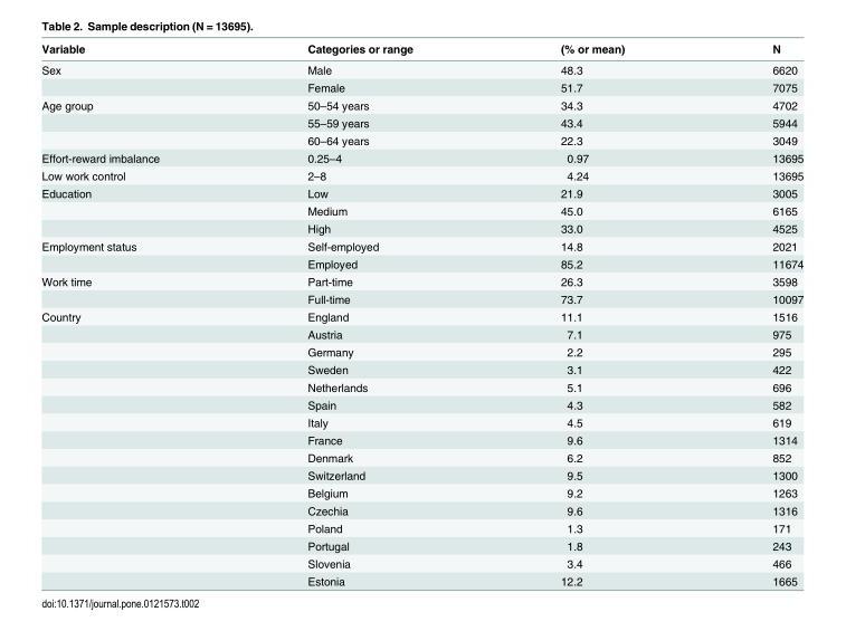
<table><thead><tr><td>Variable</td><td>Categories or range</td><td>(% or mean)</td><td>N</td></tr></thead><tbody><tr><td rowspan="2">Sex</td><td>Male</td><td>48.3</td><td>6620</td></tr><tr><td>Female</td><td>51.7</td><td>7075</td></tr><tr><td rowspan="3">Age group</td><td>50–54 years</td><td>34.3</td><td>4702</td></tr><tr><td>55–59 years</td><td>43.4</td><td>5944</td></tr><tr><td>60–64 years</td><td>22.3</td><td>3049</td></tr><tr><td>Effort-reward imbalance</td><td>0.25–4</td><td>0.97</td><td>13695</td></tr><tr><td>Low work control</td><td>2–8</td><td>4.24</td><td>13695</td></tr><tr><td rowspan="3">Education</td><td>Low</td><td>21.9</td><td>3005</td></tr><tr><td>Medium</td><td>45.0</td><td>6165</td></tr><tr><td>High</td><td>33.0</td><td>4525</td></tr><tr><td rowspan="2">Employment status</td><td>Self-employed</td><td>14.8</td><td>2021</td></tr><tr><td>Employed</td><td>85.2</td><td>11674</td></tr><tr><td rowspan="2">Work time</td><td>Part-time</td><td>26.3</td><td>3598</td></tr><tr><td>Full-time</td><td>73.7</td><td>10097</td></tr><tr><td rowspan="16">Country</td><td>England</td><td>11.1</td><td>1516</td></tr><tr><td>Austria</td><td>7.1</td><td>975</td></tr><tr><td>Germany</td><td>2.2</td><td>295</td></tr><tr><td>Sweden</td><td>3.1</td><td>422</td></tr><tr><td>Netherlands</td><td>5.1</td><td>696</td></tr><tr><td>Spain</td><td>4.3</td><td>582</td></tr><tr><td>Italy</td><td>4.5</td><td>619</td></tr><tr><td>France</td><td>9.6</td><td>1314</td></tr><tr><td>Denmark</td><td>6.2</td><td>852</td></tr><tr><td>Switzerland</td><td>9.5</td><td>1300</td></tr><tr><td>Belgium</td><td>9.2</td><td>1263</td></tr><tr><td>Czechia</td><td>9.6</td><td>1316</td></tr><tr><td>Poland</td><td>1.3</td><td>171</td></tr><tr><td>Portugal</td><td>1.8</td><td>243</td></tr><tr><td>Slovenia</td><td>3.4</td><td>466</td></tr><tr><td>Estonia</td><td>12.2</td><td>1665</td></tr></tbody></table>